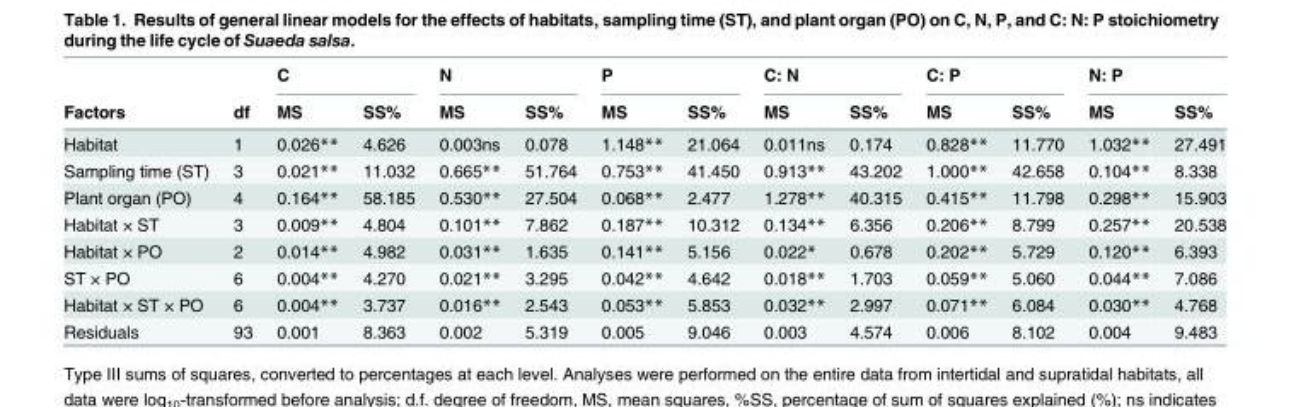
<table><thead><tr><td rowspan="2">Factors</td><td rowspan="2">df</td><td colspan="2">C</td><td colspan="2">N</td><td colspan="2">P</td><td colspan="2">C: N</td><td colspan="2">C: P</td><td colspan="2">N: P</td></tr><tr><td>MS</td><td>SS%</td><td>MS</td><td>SS%</td><td>MS</td><td>SS%</td><td>MS</td><td>SS%</td><td>MS</td><td>SS%</td><td>MS</td><td>SS%</td></tr></thead><tbody><tr><td>Habitat</td><td>1</td><td>0.026**</td><td>4.626</td><td>0.003ns</td><td>0.078</td><td>1.148**</td><td>21.064</td><td>0.011ns</td><td>0.174</td><td>0.828**</td><td>11.770</td><td>1.032**</td><td>27.491</td></tr><tr><td>Sampling time (ST)</td><td>3</td><td>0.021**</td><td>11.032</td><td>0.665**</td><td>51.764</td><td>0.753**</td><td>41.450</td><td>0.913**</td><td>43.202</td><td>1.000**</td><td>42.658</td><td>0.104**</td><td>8.338</td></tr><tr><td>Plant organ (PO)</td><td>4</td><td>0.164**</td><td>58.185</td><td>0.530**</td><td>27.504</td><td>0.068**</td><td>2.477</td><td>1.278**</td><td>40.315</td><td>0.415**</td><td>11.798</td><td>0.298**</td><td>15.903</td></tr><tr><td>Habitat × ST</td><td>3</td><td>0.009**</td><td>4.804</td><td>0.101**</td><td>7.862</td><td>0.187**</td><td>10.312</td><td>0.134**</td><td>6.356</td><td>0.206**</td><td>8.799</td><td>0.257**</td><td>20.538</td></tr><tr><td>Habitat × PO</td><td>2</td><td>0.014**</td><td>4.982</td><td>0.031**</td><td>1.635</td><td>0.141**</td><td>5.156</td><td>0.022*</td><td>0.678</td><td>0.202**</td><td>5.729</td><td>0.120**</td><td>6.393</td></tr><tr><td>ST × PO</td><td>6</td><td>0.004**</td><td>4.270</td><td>0.021**</td><td>3.295</td><td>0.042**</td><td>4.642</td><td>0.018**</td><td>1.703</td><td>0.059**</td><td>5.060</td><td>0.044**</td><td>7.086</td></tr><tr><td>Habitat × ST × PO</td><td>6</td><td>0.004**</td><td>3.737</td><td>0.016**</td><td>2.543</td><td>0.053**</td><td>5.853</td><td>0.032**</td><td>2.997</td><td>0.071**</td><td>6.084</td><td>0.030**</td><td>4.768</td></tr><tr><td>Residuals</td><td>93</td><td>0.001</td><td>8.363</td><td>0.002</td><td>5.319</td><td>0.005</td><td>9.046</td><td>0.003</td><td>4.574</td><td>0.006</td><td>8.102</td><td>0.004</td><td>9.483</td></tr></tbody></table>